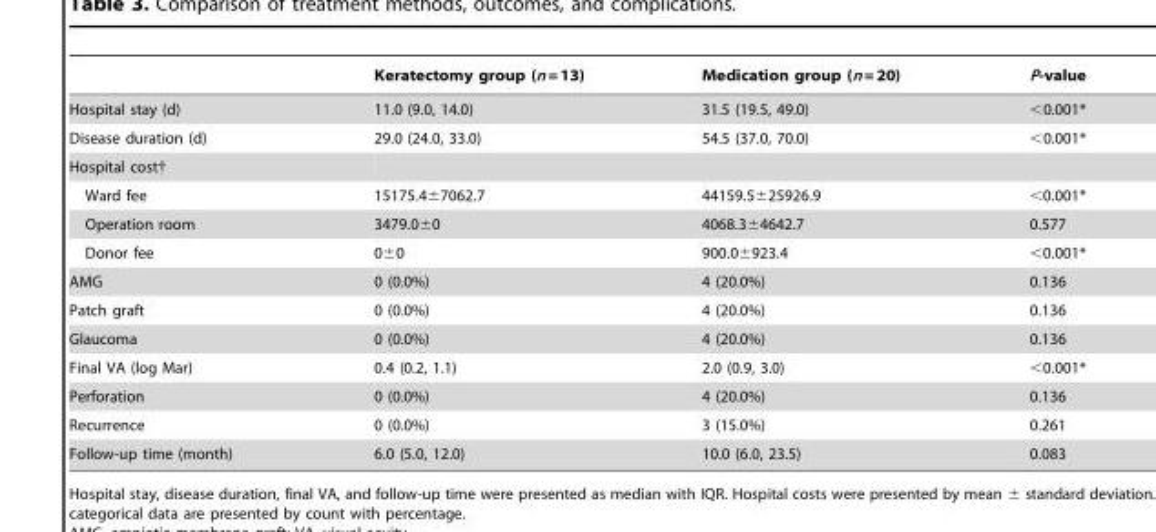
<table><thead><tr><td></td><td>Keratectomy group (n = 13)</td><td>Medication group (n = 20)</td><td>P-value</td></tr></thead><tbody><tr><td>Hospital stay (d)</td><td>11.0 (9.0, 14.0)</td><td>31.5 (19.5, 49.0)</td><td>&lt;0.001*</td></tr><tr><td>Disease duration (d)</td><td>29.0 (24.0, 33.0)</td><td>54.5 (37.0, 70.0)</td><td>&lt;0.001*</td></tr><tr><td colspan="4">Hospital cost†</td></tr><tr><td>Ward fee</td><td>15175.4±7062.7</td><td>44159.5±25926.9</td><td>&lt;0.001*</td></tr><tr><td>Operation room</td><td>3479.0±0</td><td>4068.3±4642.7</td><td>0.577</td></tr><tr><td>Donor fee</td><td>0±0</td><td>900.0±923.4</td><td>&lt;0.001*</td></tr><tr><td>AMG</td><td>0 (0.0%)</td><td>4 (20.0%)</td><td>0.136</td></tr><tr><td>Patch graft</td><td>0 (0.0%)</td><td>4 (20.0%)</td><td>0.136</td></tr><tr><td>Glaucoma</td><td>0 (0.0%)</td><td>4 (20.0%)</td><td>0.136</td></tr><tr><td>Final VA (log Mar)</td><td>0.4 (0.2, 1.1)</td><td>2.0 (0.9, 3.0)</td><td>&lt;0.001*</td></tr><tr><td>Perforation</td><td>0 (0.0%)</td><td>4 (20.0%)</td><td>0.136</td></tr><tr><td>Recurrence</td><td>0 (0.0%)</td><td>3 (15.0%)</td><td>0.261</td></tr><tr><td>Follow-up time (month)</td><td>6.0 (5.0, 12.0)</td><td>10.0 (6.0, 23.5)</td><td>0.083</td></tr></tbody></table>